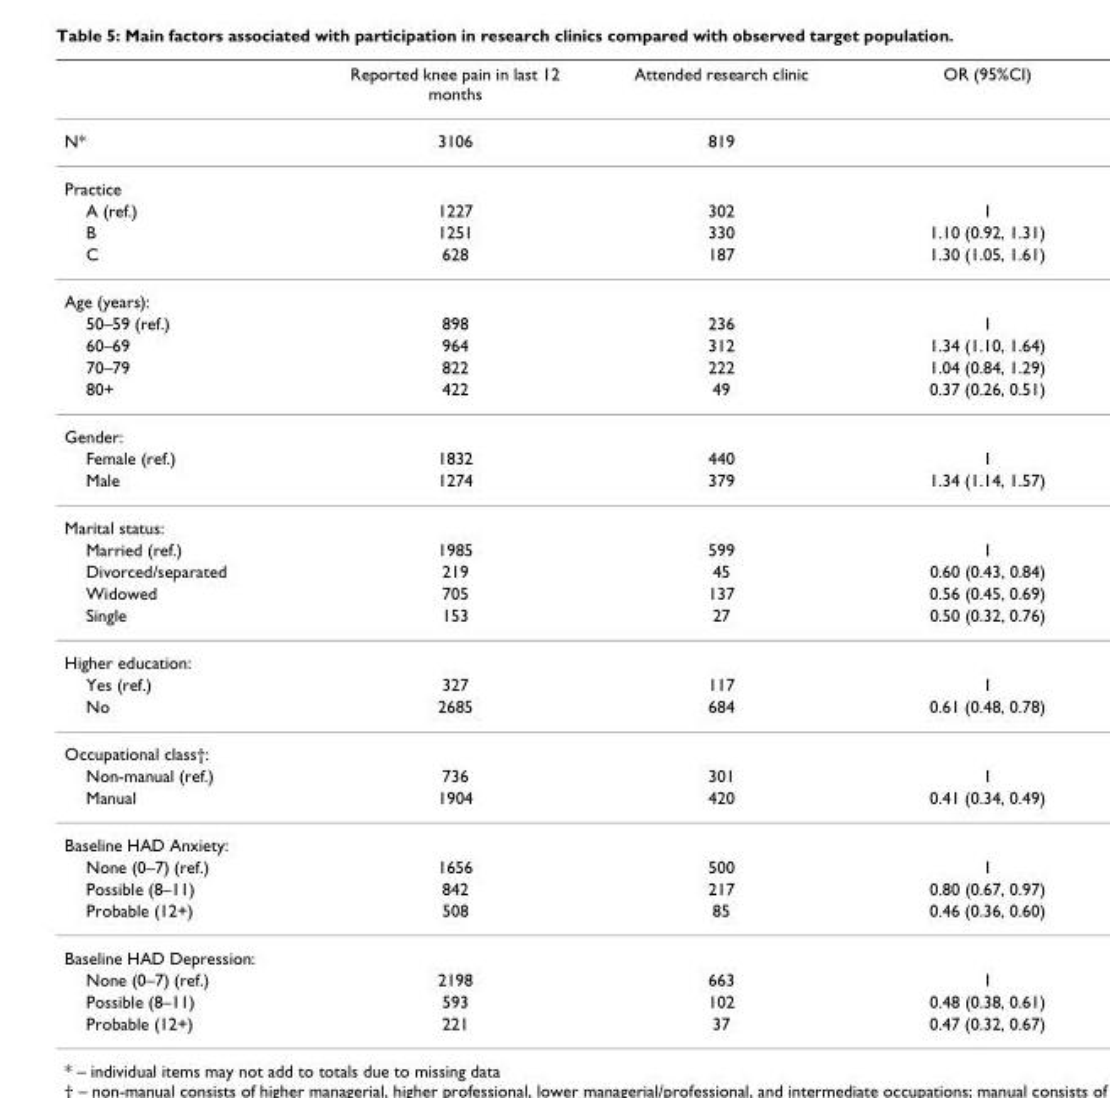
<table><thead><tr><td></td><td>Reported knee pain in last 12 months</td><td>Attended research clinic</td><td>OR (95%CI)</td></tr></thead><tbody><tr><td>N*</td><td>3106</td><td>819</td><td></td></tr><tr><td colspan="4">Practice</td></tr><tr><td>A (ref.)</td><td>1227</td><td>302</td><td>1</td></tr><tr><td>B</td><td>1251</td><td>330</td><td>1.10 (0.92, 1.31)</td></tr><tr><td>C</td><td>628</td><td>187</td><td>1.30 (1.05, 1.61)</td></tr><tr><td colspan="4">Age (years):</td></tr><tr><td>50–59 (ref.)</td><td>898</td><td>236</td><td>1</td></tr><tr><td>60–69</td><td>964</td><td>312</td><td>1.34 (1.10, 1.64)</td></tr><tr><td>70–79</td><td>822</td><td>222</td><td>1.04 (0.84, 1.29)</td></tr><tr><td>80+</td><td>422</td><td>49</td><td>0.37 (0.26, 0.51)</td></tr><tr><td colspan="4">Gender:</td></tr><tr><td>Female (ref.)</td><td>1832</td><td>440</td><td>1</td></tr><tr><td>Male</td><td>1274</td><td>379</td><td>1.34 (1.14, 1.57)</td></tr><tr><td colspan="4">Marital status:</td></tr><tr><td>Married (ref.)</td><td>1985</td><td>599</td><td>1</td></tr><tr><td>Divorced/separated</td><td>219</td><td>45</td><td>0.60 (0.43, 0.84)</td></tr><tr><td>Widowed</td><td>705</td><td>137</td><td>0.56 (0.45, 0.69)</td></tr><tr><td>Single</td><td>153</td><td>27</td><td>0.50 (0.32, 0.76)</td></tr><tr><td colspan="4">Higher education:</td></tr><tr><td>Yes (ref.)</td><td>327</td><td>117</td><td>1</td></tr><tr><td>No</td><td>2685</td><td>684</td><td>0.61 (0.48, 0.78)</td></tr><tr><td colspan="4">Occupational class†:</td></tr><tr><td>Non-manual (ref.)</td><td>736</td><td>301</td><td>1</td></tr><tr><td>Manual</td><td>1904</td><td>420</td><td>0.41 (0.34, 0.49)</td></tr><tr><td colspan="4">Baseline HAD Anxiety:</td></tr><tr><td>None (0–7) (ref.)</td><td>1656</td><td>500</td><td>1</td></tr><tr><td>Possible (8–11)</td><td>842</td><td>217</td><td>0.80 (0.67, 0.97)</td></tr><tr><td>Probable (12+)</td><td>508</td><td>85</td><td>0.46 (0.36, 0.60)</td></tr><tr><td colspan="4">Baseline HAD Depression:</td></tr><tr><td>None (0–7) (ref.)</td><td>2198</td><td>663</td><td>1</td></tr><tr><td>Possible (8–11)</td><td>593</td><td>102</td><td>0.48 (0.38, 0.61)</td></tr><tr><td>Probable (12+)</td><td>221</td><td>37</td><td>0.47 (0.32, 0.67)</td></tr></tbody></table>